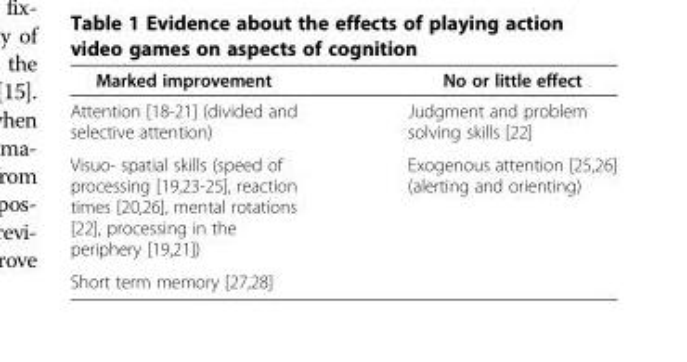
<table><thead><tr><td>Marked improvement</td><td>No or little effect</td></tr></thead><tbody><tr><td>Attention [18-21] (divided and selective attention)</td><td>Judgment and problem solving skills [22]</td></tr><tr><td>Visuo- spatial skills (speed of processing [19,23-25], reaction times [20,26], mental rotations [22], processing in the periphery [19,21])</td><td>Exogenous attention [25,26] (alerting and orienting)</td></tr><tr><td>Short term memory [27,28]</td><td></td></tr></tbody></table>